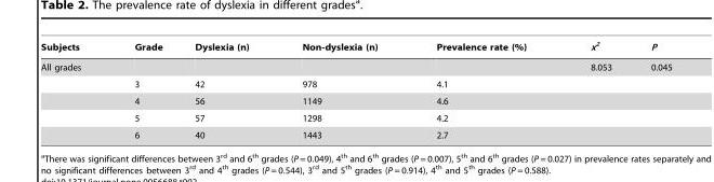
<table><thead><tr><td>Subjects</td><td>Grade</td><td>Dyslexia (n)</td><td>Non-dyslexia (n)</td><td>Prevalence rate (%)</td><td>x<sup>2</sup></td><td>P</td></tr></thead><tbody><tr><td rowspan="5">All grades</td><td></td><td></td><td></td><td></td><td>8.053</td><td>0.045</td></tr><tr><td>3</td><td>42</td><td>978</td><td>4.1</td><td></td><td></td></tr><tr><td>4</td><td>56</td><td>1149</td><td>4.6</td><td></td><td></td></tr><tr><td>5</td><td>57</td><td>1298</td><td>4.2</td><td></td><td></td></tr><tr><td>6</td><td>40</td><td>1443</td><td>2.7</td><td></td><td></td></tr></tbody></table>